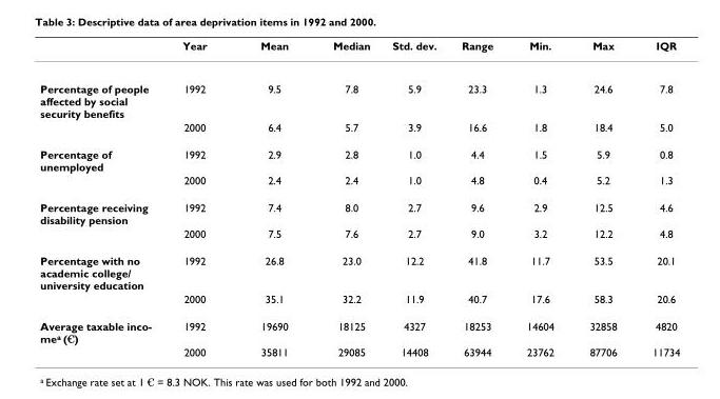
<table><thead><tr><td></td><td>Year</td><td>Mean</td><td>Median</td><td>Std. dev.</td><td>Range</td><td>Min.</td><td>Max</td><td>IQR</td></tr></thead><tbody><tr><td rowspan="2">Percentage of people affected by social security benefits</td><td>1992</td><td>9.5</td><td>7.8</td><td>5.9</td><td>23.3</td><td>1.3</td><td>24.6</td><td>7.8</td></tr><tr><td>2000</td><td>6.4</td><td>5.7</td><td>3.9</td><td>16.6</td><td>1.8</td><td>18.4</td><td>5.0</td></tr><tr><td rowspan="2">Percentage of unemployed</td><td>1992</td><td>2.9</td><td>2.8</td><td>1.0</td><td>4.4</td><td>1.5</td><td>5.9</td><td>0.8</td></tr><tr><td>2000</td><td>2.4</td><td>2.4</td><td>1.0</td><td>4.8</td><td>0.4</td><td>5.2</td><td>1.3</td></tr><tr><td rowspan="2">Percentage receiving disability pension</td><td>1992</td><td>7.4</td><td>8.0</td><td>2.7</td><td>9.6</td><td>2.9</td><td>12.5</td><td>4.6</td></tr><tr><td>2000</td><td>7.5</td><td>7.6</td><td>2.7</td><td>9.0</td><td>3.2</td><td>12.2</td><td>4.8</td></tr><tr><td rowspan="2">Percentage with no academic college/ university education</td><td>1992</td><td>26.8</td><td>23.0</td><td>12.2</td><td>41.8</td><td>11.7</td><td>53.5</td><td>20.1</td></tr><tr><td>2000</td><td>35.1</td><td>32.2</td><td>11.9</td><td>40.7</td><td>17.6</td><td>58.3</td><td>20.6</td></tr><tr><td rowspan="2">Average taxable inco- mea (€)</td><td>1992</td><td>19690</td><td>18125</td><td>4327</td><td>18253</td><td>14604</td><td>32858</td><td>4820</td></tr><tr><td>2000</td><td>35811</td><td>29085</td><td>14408</td><td>63944</td><td>23762</td><td>87706</td><td>11734</td></tr></tbody></table>